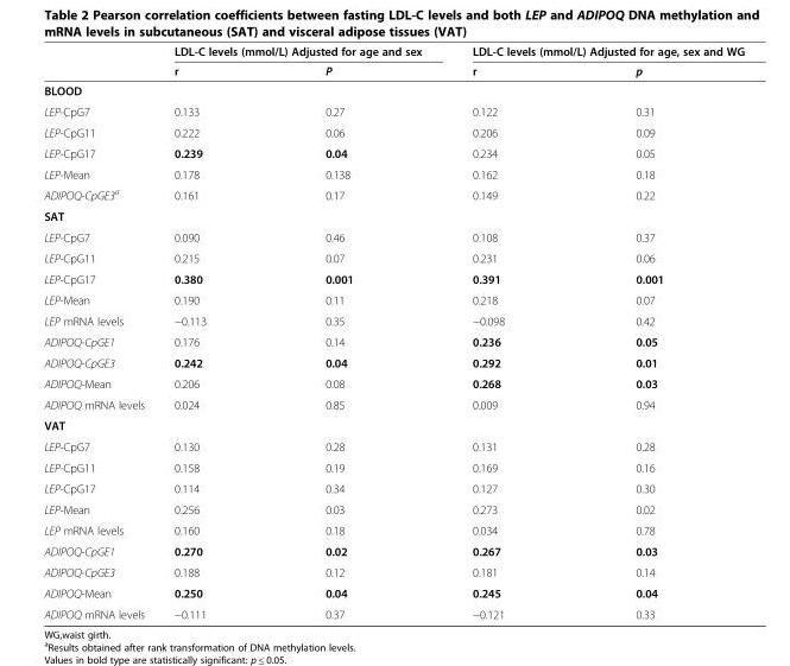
<table><thead><tr><td rowspan="2"></td><td colspan="2">LDL-C levels (mmol/L) Adjusted for age and sex</td><td colspan="2">LDL-C levels (mmol/L) Adjusted for age, sex and WG</td></tr><tr><td>r</td><td>P</td><td>r</td><td>p</td></tr></thead><tbody><tr><td colspan="5">BLOOD</td></tr><tr><td>LEP-CpG7</td><td>0.133</td><td>0.27</td><td>0.122</td><td>0.31</td></tr><tr><td>LEP-CpG11</td><td>0.222</td><td>0.06</td><td>0.206</td><td>0.09</td></tr><tr><td>LEP-CpG17</td><td>0.239</td><td>0.04</td><td>0.234</td><td>0.05</td></tr><tr><td>LEP-Mean</td><td>0.178</td><td>0.138</td><td>0.162</td><td>0.18</td></tr><tr><td>ADIPOQ-CpGE3<sup>a</sup></td><td>0.161</td><td>0.17</td><td>0.149</td><td>0.22</td></tr><tr><td colspan="5">SAT</td></tr><tr><td>LEP-CpG7</td><td>0.090</td><td>0.46</td><td>0.108</td><td>0.37</td></tr><tr><td>LEP-CpG11</td><td>0.215</td><td>0.07</td><td>0.231</td><td>0.06</td></tr><tr><td>LEP-CpG17</td><td>0.380</td><td>0.001</td><td>0.391</td><td>0.001</td></tr><tr><td>LEP-Mean</td><td>0.190</td><td>0.11</td><td>0.218</td><td>0.07</td></tr><tr><td>LEP mRNA levels</td><td>−0.113</td><td>0.35</td><td>−0.098</td><td>0.42</td></tr><tr><td>ADIPOQ-CpGE1</td><td>0.176</td><td>0.14</td><td>0.236</td><td>0.05</td></tr><tr><td>ADIPOQ-CpGE3</td><td>0.242</td><td>0.04</td><td>0.292</td><td>0.01</td></tr><tr><td>ADIPOQ-Mean</td><td>0.206</td><td>0.08</td><td>0.268</td><td>0.03</td></tr><tr><td>ADIPOQ mRNA levels</td><td>0.024</td><td>0.85</td><td>0.009</td><td>0.94</td></tr><tr><td colspan="5">VAT</td></tr><tr><td>LEP-CpG7</td><td>0.130</td><td>0.28</td><td>0.131</td><td>0.28</td></tr><tr><td>LEP-CpG11</td><td>0.158</td><td>0.19</td><td>0.169</td><td>0.16</td></tr><tr><td>LEP-CpG17</td><td>0.114</td><td>0.34</td><td>0.127</td><td>0.30</td></tr><tr><td>LEP-Mean</td><td>0.256</td><td>0.03</td><td>0.273</td><td>0.02</td></tr><tr><td>LEP mRNA levels</td><td>0.160</td><td>0.18</td><td>0.034</td><td>0.78</td></tr><tr><td>ADIPOQ-CpGE1</td><td>0.270</td><td>0.02</td><td>0.267</td><td>0.03</td></tr><tr><td>ADIPOQ-CpGE3</td><td>0.188</td><td>0.12</td><td>0.181</td><td>0.14</td></tr><tr><td>ADIPOQ-Mean</td><td>0.250</td><td>0.04</td><td>0.245</td><td>0.04</td></tr><tr><td>ADIPOQ mRNA levels</td><td>−0.111</td><td>0.37</td><td>−0.121</td><td>0.33</td></tr></tbody></table>